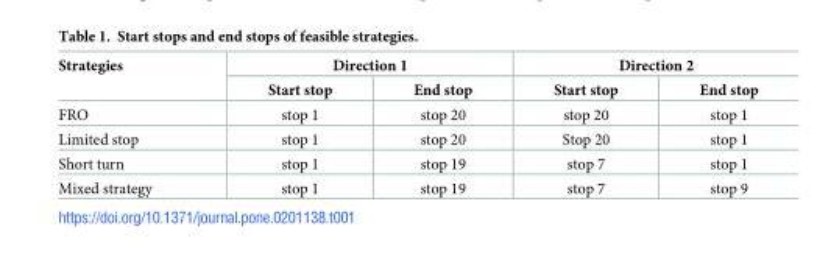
<table><thead><tr><td rowspan="2">Strategies</td><td colspan="2">Direction 1</td><td colspan="2">Direction 2</td></tr><tr><td>Start stop</td><td>End stop</td><td>Start stop</td><td>End stop</td></tr></thead><tbody><tr><td>FRO</td><td>stop 1</td><td>stop 20</td><td>stop 20</td><td>stop 1</td></tr><tr><td>Limited stop</td><td>stop 1</td><td>stop 20</td><td>Stop 20</td><td>stop 1</td></tr><tr><td>Short turn</td><td>stop 1</td><td>stop 19</td><td>stop 7</td><td>stop 1</td></tr><tr><td>Mixed strategy</td><td>stop 1</td><td>stop 19</td><td>stop 7</td><td>stop 9</td></tr></tbody></table>